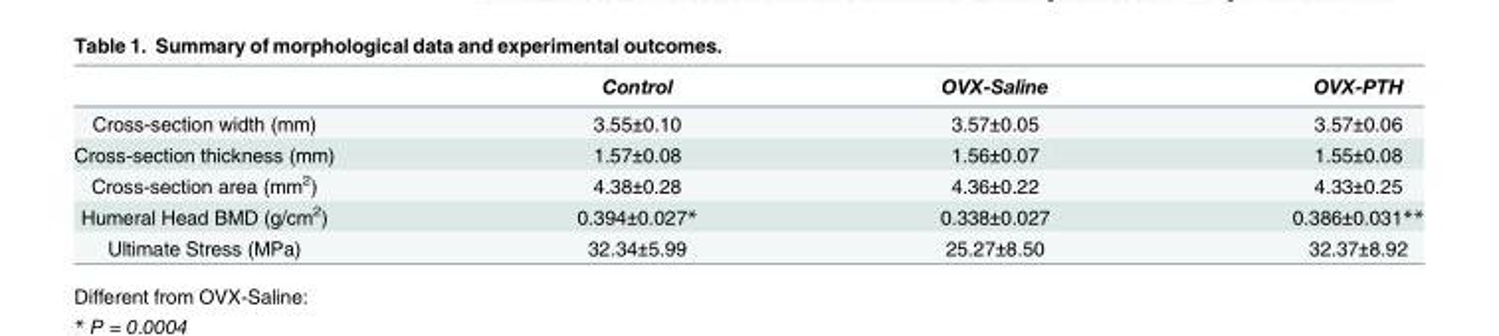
<table><thead><tr><td></td><td>Control</td><td>OVX-Saline</td><td>OVX-PTH</td></tr></thead><tbody><tr><td>Cross-section width (mm)</td><td>3.55±0.10</td><td>3.57±0.05</td><td>3.57±0.06</td></tr><tr><td>Cross-section thickness (mm)</td><td>1.57±0.08</td><td>1.56±0.07</td><td>1.55±0.08</td></tr><tr><td>Cross-section area (mm<sup>2</sup>)</td><td>4.38±0.28</td><td>4.36±0.22</td><td>4.33±0.25</td></tr><tr><td>Humeral Head BMD (g/cm<sup>2</sup>)</td><td>0.394±0.027*</td><td>0.338±0.027</td><td>0.386±0.031**</td></tr><tr><td>Ultimate Stress (MPa)</td><td>32.34±5.99</td><td>25.27±8.50</td><td>32.37±8.92</td></tr></tbody></table>